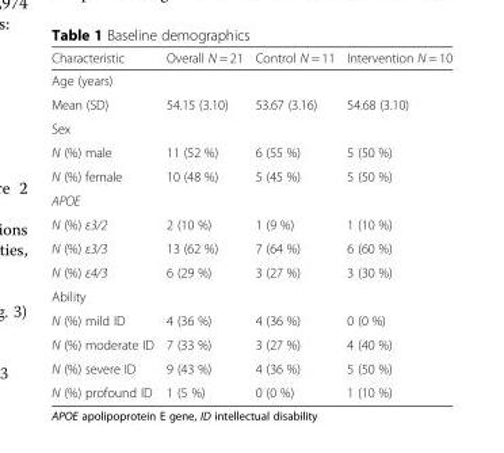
<table><thead><tr><td>Characteristic</td><td>Overall N = 21</td><td>Control N = 11</td><td>Intervention N = 10</td></tr></thead><tbody><tr><td colspan="4">Age (years)</td></tr><tr><td>Mean (SD)</td><td>54.15 (3.10)</td><td>53.67 (3.16)</td><td>54.68 (3.10)</td></tr><tr><td colspan="4">Sex</td></tr><tr><td>N (%) male</td><td>11 (52 %)</td><td>6 (55 %)</td><td>5 (50 %)</td></tr><tr><td>N (%) female</td><td>10 (48 %)</td><td>5 (45 %)</td><td>5 (50 %)</td></tr><tr><td colspan="4">APOE</td></tr><tr><td>N (%) ε3/2</td><td>2 (10 %)</td><td>1 (9 %)</td><td>1 (10 %)</td></tr><tr><td>N (%) ε3/3</td><td>13 (62 %)</td><td>7 (64 %)</td><td>6 (60 %)</td></tr><tr><td>N (%) ε4/3</td><td>6 (29 %)</td><td>3 (27 %)</td><td>3 (30 %)</td></tr><tr><td colspan="4">Ability</td></tr><tr><td>N (%) mild ID</td><td>4 (36 %)</td><td>4 (36 %)</td><td>0 (0 %)</td></tr><tr><td>N (%) moderate ID</td><td>7 (33 %)</td><td>3 (27 %)</td><td>4 (40 %)</td></tr><tr><td>N (%) severe ID</td><td>9 (43 %)</td><td>4 (36 %)</td><td>5 (50 %)</td></tr><tr><td>N (%) profound ID</td><td>1 (5 %)</td><td>0 (0 %)</td><td>1 (10 %)</td></tr></tbody></table>